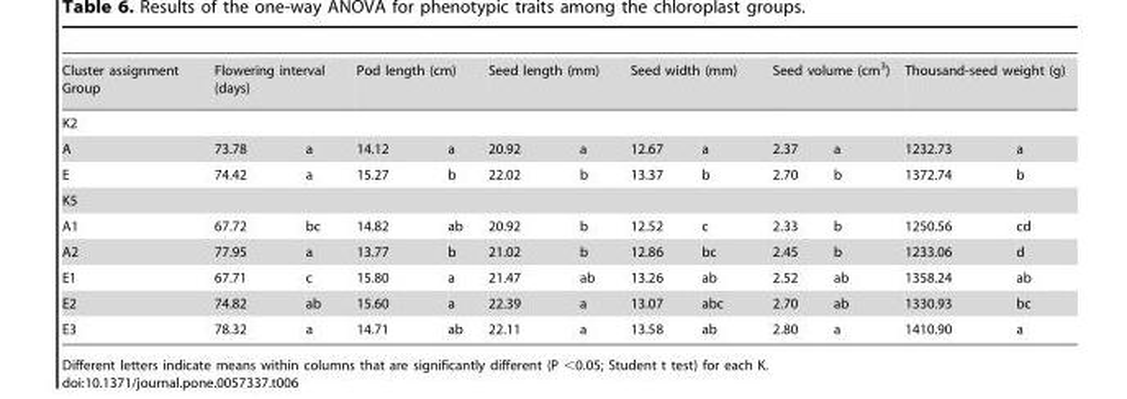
<table><tbody><tr><td>Cluster assignment Group</td><td colspan="2">Flowering interval (days)</td><td colspan="2">Pod length (cm)</td><td colspan="2">Seed length (mm)</td><td colspan="2">Seed width (mm)</td><td colspan="2">Seed volume (cm<sup>3</sup>)</td><td colspan="2">Thousand-seed weight (g)</td></tr><tr><td colspan="13">K2</td></tr><tr><td>A</td><td>73.78</td><td>a</td><td>14.12</td><td>a</td><td>20.92</td><td>a</td><td>12.67</td><td>a</td><td>2.37</td><td>a</td><td>1232.73</td><td>a</td></tr><tr><td>E</td><td>74.42</td><td>a</td><td>15.27</td><td>b</td><td>22.02</td><td>b</td><td>13.37</td><td>b</td><td>2.70</td><td>b</td><td>1372.74</td><td>b</td></tr><tr><td colspan="13">K5</td></tr><tr><td>A1</td><td>67.72</td><td>bc</td><td>14.82</td><td>ab</td><td>20.92</td><td>b</td><td>12.52</td><td>c</td><td>2.33</td><td>b</td><td>1250.56</td><td>cd</td></tr><tr><td>A2</td><td>77.95</td><td>a</td><td>13.77</td><td>b</td><td>21.02</td><td>b</td><td>12.86</td><td>bc</td><td>2.45</td><td>b</td><td>1233.06</td><td>d</td></tr><tr><td>E1</td><td>67.71</td><td>c</td><td>15.80</td><td>a</td><td>21.47</td><td>ab</td><td>13.26</td><td>ab</td><td>2.52</td><td>ab</td><td>1358.24</td><td>ab</td></tr><tr><td>E2</td><td>74.82</td><td>ab</td><td>15.60</td><td>a</td><td>22.39</td><td>a</td><td>13.07</td><td>abc</td><td>2.70</td><td>ab</td><td>1330.93</td><td>bc</td></tr><tr><td>E3</td><td>78.32</td><td>a</td><td>14.71</td><td>ab</td><td>22.11</td><td>a</td><td>13.58</td><td>ab</td><td>2.80</td><td>a</td><td>1410.90</td><td>a</td></tr></tbody></table>